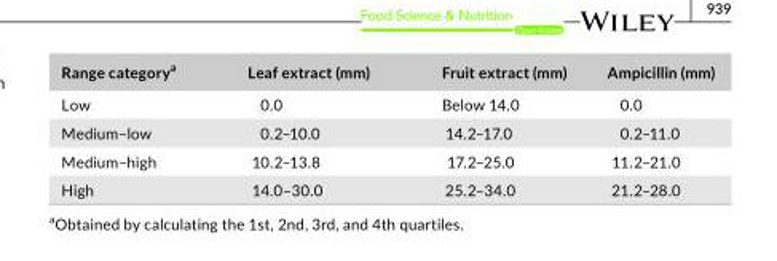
<table><thead><tr><td>Range category<sup>a</sup></td><td>Leaf extract (mm)</td><td>Fruit extract (mm)</td><td>Ampicillin (mm)</td></tr></thead><tbody><tr><td>Low</td><td>0.0</td><td>Below 14.0</td><td>0.0</td></tr><tr><td>Medium–low</td><td>0.2–10.0</td><td>14.2–17.0</td><td>0.2–11.0</td></tr><tr><td>Medium–high</td><td>10.2–13.8</td><td>17.2–25.0</td><td>11.2–21.0</td></tr><tr><td>High</td><td>14.0–30.0</td><td>25.2–34.0</td><td>21.2–28.0</td></tr></tbody></table>